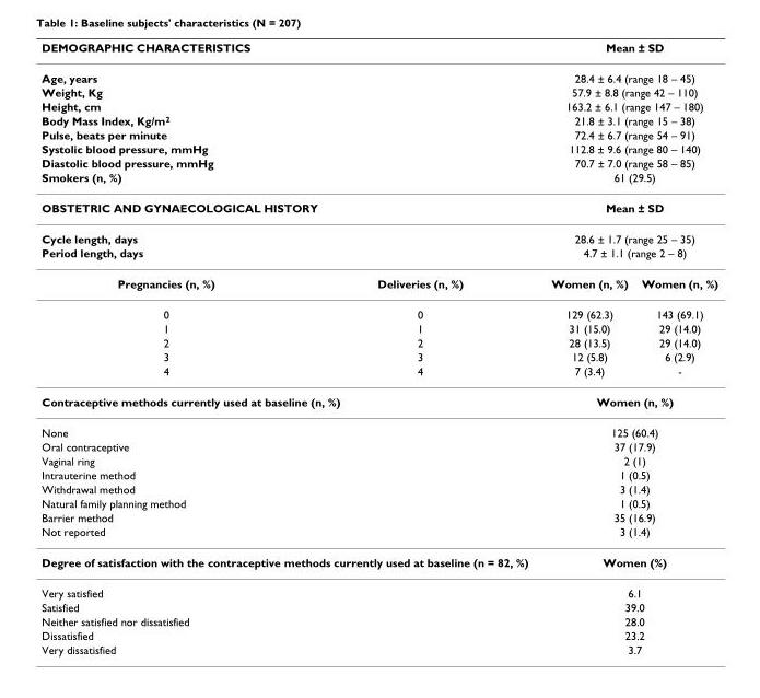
<table><thead><tr><td colspan="2">DEMOGRAPHIC CHARACTERISTICS</td><td colspan="2">Mean ± SD</td></tr></thead><tbody><tr><td colspan="2">Age, years</td><td colspan="2">28.4 ± 6.4 (range 18 – 45)</td></tr><tr><td colspan="2">Weight, Kg</td><td colspan="2">57.9 ± 8.8 (range 42 – 110)</td></tr><tr><td colspan="2">Height, cm</td><td colspan="2">163.2 ± 6.1 (range 147 – 180)</td></tr><tr><td colspan="2">Body Mass Index, Kg/m<sup>2</sup></td><td colspan="2">21.8 ± 3.1 (range 15 – 38)</td></tr><tr><td colspan="2">Pulse, beats per minute</td><td colspan="2">72.4 ± 6.7 (range 54 – 91)</td></tr><tr><td colspan="2">Systolic blood pressure, mmHg</td><td colspan="2">112.8 ± 9.6 (range 80 – 140)</td></tr><tr><td colspan="2">Diastolic blood pressure, mmHg</td><td colspan="2">70.7 ± 7.0 (range 58 – 85)</td></tr><tr><td colspan="2">Smokers (n, %)</td><td colspan="2">61 (29.5)</td></tr><tr><td colspan="2">OBSTETRIC AND GYNAECOLOGICAL HISTORY</td><td colspan="2">Mean ± SD</td></tr><tr><td colspan="2">Cycle length, days</td><td colspan="2">28.6 ± 1.7 (range 25 – 35)</td></tr><tr><td colspan="2">Period length, days</td><td colspan="2">4.7 ± 1.1 (range 2 – 8)</td></tr><tr><td>Pregnancies (n, %)</td><td>Deliveries (n, %)</td><td>Women (n, %)</td><td>Women (n, %)</td></tr><tr><td>0</td><td>0</td><td>129 (62.3)</td><td>143 (69.1)</td></tr><tr><td>1</td><td>1</td><td>31 (15.0)</td><td>29 (14.0)</td></tr><tr><td>2</td><td>2</td><td>28 (13.5)</td><td>29 (14.0)</td></tr><tr><td>3</td><td>3</td><td>12 (5.8)</td><td>6 (2.9)</td></tr><tr><td>4</td><td>4</td><td>7 (3.4)</td><td>-</td></tr><tr><td colspan="2">Contraceptive methods currently used at baseline (n, %)</td><td colspan="2">Women (n, %)</td></tr><tr><td colspan="2">None</td><td colspan="2">125 (60.4)</td></tr><tr><td colspan="2">Oral contraceptive</td><td colspan="2">37 (17.9)</td></tr><tr><td colspan="2">Vaginal ring</td><td colspan="2">2 (1)</td></tr><tr><td colspan="2">Intrauterine method</td><td colspan="2">1 (0.5)</td></tr><tr><td colspan="2">Withdrawal method</td><td colspan="2">3 (1.4)</td></tr><tr><td colspan="2">Natural family planning method</td><td colspan="2">1 (0.5)</td></tr><tr><td colspan="2">Barrier method</td><td colspan="2">35 (16.9)</td></tr><tr><td colspan="2">Not reported</td><td colspan="2">3 (1.4)</td></tr><tr><td colspan="2">Degree of satisfaction with the contraceptive methods currently used at baseline (n = 82, %)</td><td colspan="2">Women (%)</td></tr><tr><td colspan="2">Very satisfied</td><td colspan="2">6.1</td></tr><tr><td colspan="2">Satisfied</td><td colspan="2">39.0</td></tr><tr><td colspan="2">Neither satisfied nor dissatisfied</td><td colspan="2">28.0</td></tr><tr><td colspan="2">Dissatisfied</td><td colspan="2">23.2</td></tr><tr><td colspan="2">Very dissatisfied</td><td colspan="2">3.7</td></tr></tbody></table>